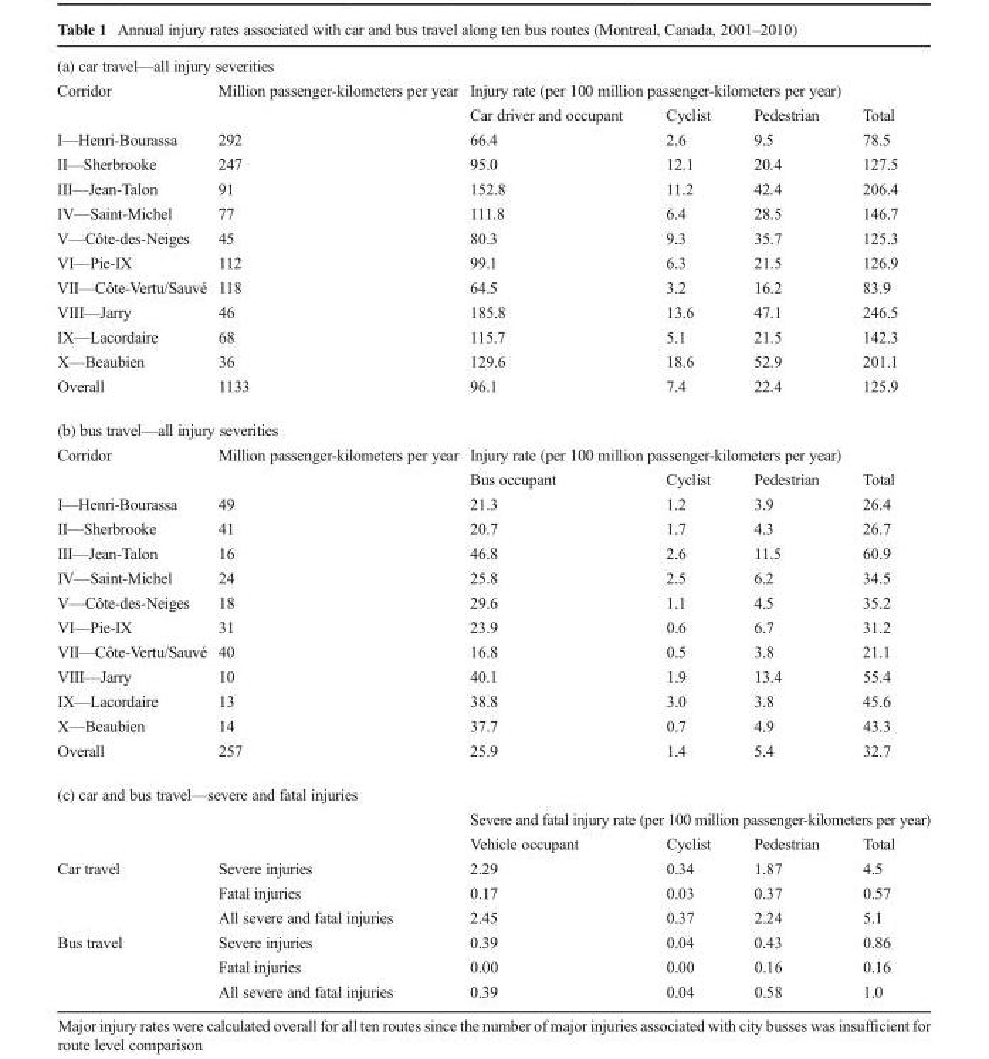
<table><tbody><tr><td colspan="6">(a) car travel—all injury severities</td></tr><tr><td rowspan="2">Corridor</td><td rowspan="2">Million passenger-kilometers per year</td><td colspan="4">Injury rate (per 100 million passenger-kilometers per year)</td></tr><tr><td>Car driver and occupant</td><td>Cyclist</td><td>Pedestrian</td><td>Total</td></tr><tr><td>I—Henri-Bourassa</td><td>292</td><td>66.4</td><td>2.6</td><td>9.5</td><td>78.5</td></tr><tr><td>II—Sherbrooke</td><td>247</td><td>95.0</td><td>12.1</td><td>20.4</td><td>127.5</td></tr><tr><td>III—Jean-Talon</td><td>91</td><td>152.8</td><td>11.2</td><td>42.4</td><td>206.4</td></tr><tr><td>IV—Saint-Michel</td><td>77</td><td>111.8</td><td>6.4</td><td>28.5</td><td>146.7</td></tr><tr><td>V—Côte-des-Neiges</td><td>45</td><td>80.3</td><td>9.3</td><td>35.7</td><td>125.3</td></tr><tr><td>VI—Pie-IX</td><td>112</td><td>99.1</td><td>6.3</td><td>21.5</td><td>126.9</td></tr><tr><td>VII—Côte-Vertu/Sauvé</td><td>118</td><td>64.5</td><td>3.2</td><td>16.2</td><td>83.9</td></tr><tr><td>VIII—Jarry</td><td>46</td><td>185.8</td><td>13.6</td><td>47.1</td><td>246.5</td></tr><tr><td>IX—Lacordaire</td><td>68</td><td>115.7</td><td>5.1</td><td>21.5</td><td>142.3</td></tr><tr><td>X—Beaubien</td><td>36</td><td>129.6</td><td>18.6</td><td>52.9</td><td>201.1</td></tr><tr><td>Overall</td><td>1133</td><td>96.1</td><td>7.4</td><td>22.4</td><td>125.9</td></tr><tr><td colspan="6">(b) bus travel—all injury severities</td></tr><tr><td rowspan="2">Corridor</td><td rowspan="2">Million passenger-kilometers per year</td><td colspan="4">Injury rate (per 100 million passenger-kilometers per year)</td></tr><tr><td>Bus occupant</td><td>Cyclist</td><td>Pedestrian</td><td>Total</td></tr><tr><td>I—Henri-Bourassa</td><td>49</td><td>21.3</td><td>1.2</td><td>3.9</td><td>26.4</td></tr><tr><td>II—Sherbrooke</td><td>41</td><td>20.7</td><td>1.7</td><td>4.3</td><td>26.7</td></tr><tr><td>III—Jean-Talon</td><td>16</td><td>46.8</td><td>2.6</td><td>11.5</td><td>60.9</td></tr><tr><td>IV—Saint-Michel</td><td>24</td><td>25.8</td><td>2.5</td><td>6.2</td><td>34.5</td></tr><tr><td>V—Côte-des-Neiges</td><td>18</td><td>29.6</td><td>1.1</td><td>4.5</td><td>35.2</td></tr><tr><td>VI—Pie-IX</td><td>31</td><td>23.9</td><td>0.6</td><td>6.7</td><td>31.2</td></tr><tr><td>VII—Côte-Vertu/Sauvé</td><td>40</td><td>16.8</td><td>0.5</td><td>3.8</td><td>21.1</td></tr><tr><td>VIII—Jarry</td><td>10</td><td>40.1</td><td>1.9</td><td>13.4</td><td>55.4</td></tr><tr><td>IX—Lacordaire</td><td>13</td><td>38.8</td><td>3.0</td><td>3.8</td><td>45.6</td></tr><tr><td>X—Beaubien</td><td>14</td><td>37.7</td><td>0.7</td><td>4.9</td><td>43.3</td></tr><tr><td>Overall</td><td>257</td><td>25.9</td><td>1.4</td><td>5.4</td><td>32.7</td></tr><tr><td colspan="6">(c) car and bus travel—severe and fatal injuries</td></tr><tr><td rowspan="2" colspan="2"></td><td colspan="4">Severe and fatal injury rate (per 100 million passenger-kilometers per year)</td></tr><tr><td>Vehicle occupant</td><td>Cyclist</td><td>Pedestrian</td><td>Total</td></tr><tr><td rowspan="3">Car travel</td><td>Severe injuries</td><td>2.29</td><td>0.34</td><td>1.87</td><td>4.5</td></tr><tr><td>Fatal injuries</td><td>0.17</td><td>0.03</td><td>0.37</td><td>0.57</td></tr><tr><td>All severe and fatal injuries</td><td>2.45</td><td>0.37</td><td>2.24</td><td>5.1</td></tr><tr><td rowspan="3">Bus travel</td><td>Severe injuries</td><td>0.39</td><td>0.04</td><td>0.43</td><td>0.86</td></tr><tr><td>Fatal injuries</td><td>0.00</td><td>0.00</td><td>0.16</td><td>0.16</td></tr><tr><td>All severe and fatal injuries</td><td>0.39</td><td>0.04</td><td>0.58</td><td>1.0</td></tr></tbody></table>